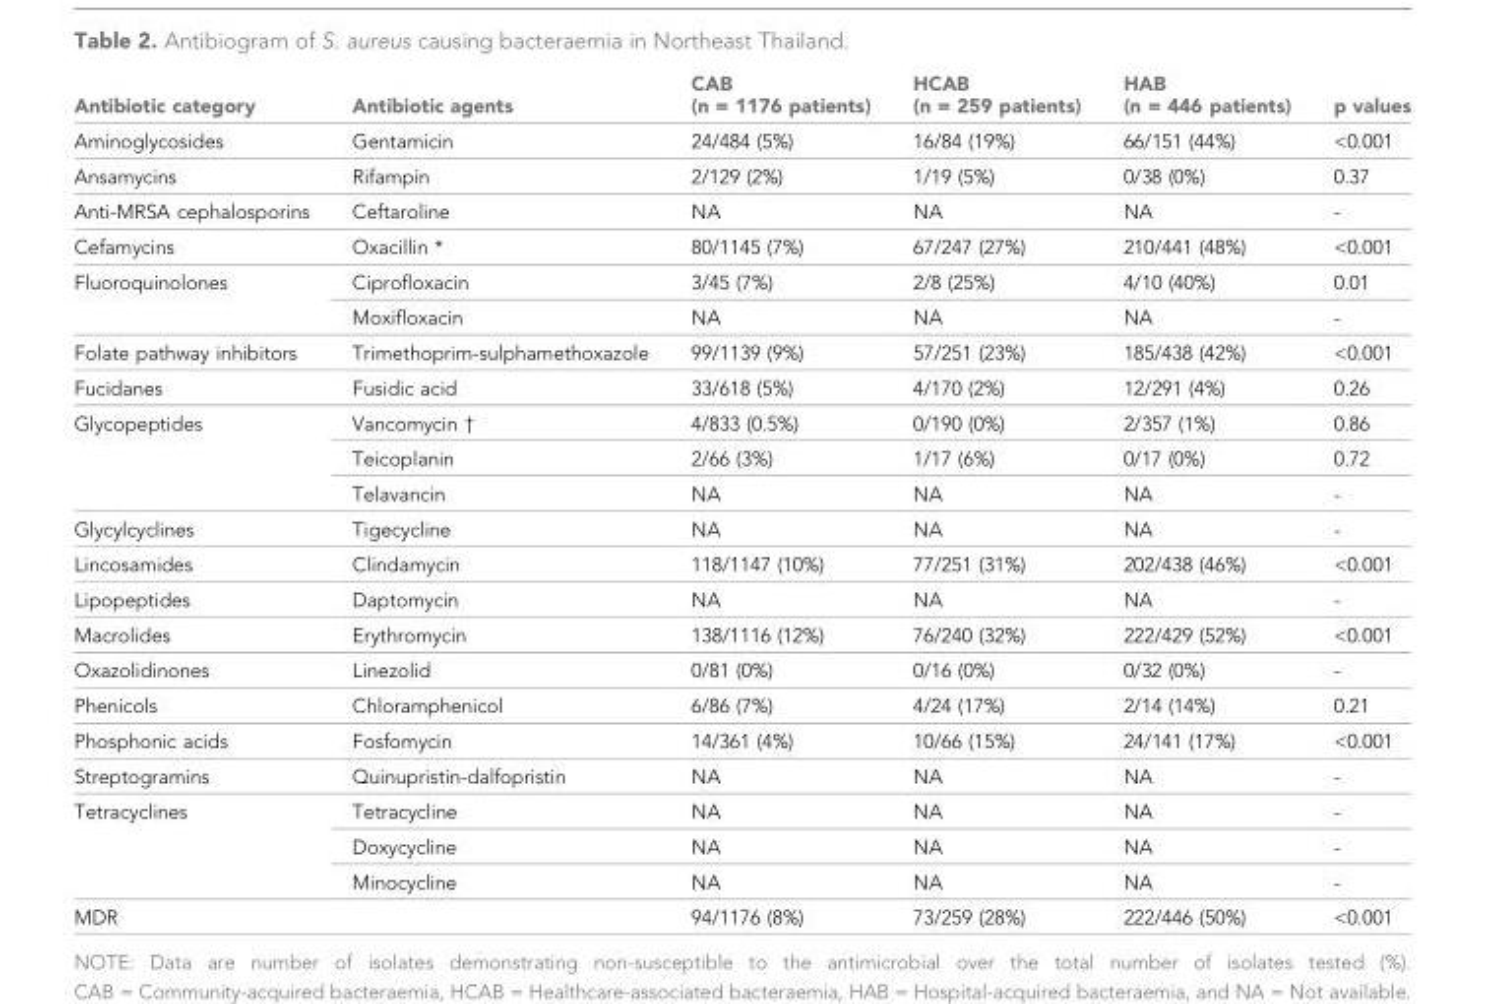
<table><thead><tr><td>Antibiotic category</td><td>Antibiotic agents</td><td>CAB (n = 1176 patients)</td><td>HCAB (n = 259 patients)</td><td>HAB (n = 446 patients)</td><td>p values</td></tr></thead><tbody><tr><td>Aminoglycosides</td><td>Gentamicin</td><td>24/484 (5%)</td><td>16/84 (19%)</td><td>66/151 (44%)</td><td>&lt;0.001</td></tr><tr><td>Ansamycins</td><td>Rifampin</td><td>2/129 (2%)</td><td>1/19 (5%)</td><td>0/38 (0%)</td><td>0.37</td></tr><tr><td>Anti-MRSA cephalosporins</td><td>Ceftaroline</td><td>NA</td><td>NA</td><td>NA</td><td>-</td></tr><tr><td>Cefamycins</td><td>Oxacillin *</td><td>80/1145 (7%)</td><td>67/247 (27%)</td><td>210/441 (48%)</td><td>&lt;0.001</td></tr><tr><td rowspan="2">Fluoroquinolones</td><td>Ciprofloxacin</td><td>3/45 (7%)</td><td>2/8 (25%)</td><td>4/10 (40%)</td><td>0.01</td></tr><tr><td>Moxifloxacin</td><td>NA</td><td>NA</td><td>NA</td><td>-</td></tr><tr><td>Folate pathway inhibitors</td><td>Trimethoprim-sulphamethoxazole</td><td>99/1139 (9%)</td><td>57/251 (23%)</td><td>185/438 (42%)</td><td>&lt;0.001</td></tr><tr><td>Fucidanes</td><td>Fusidic acid</td><td>33/618 (5%)</td><td>4/170 (2%)</td><td>12/291 (4%)</td><td>0.26</td></tr><tr><td rowspan="3">Glycopeptides</td><td>Vancomycin †</td><td>4/833 (0.5%)</td><td>0/190 (0%)</td><td>2/357 (1%)</td><td>0.86</td></tr><tr><td>Teicoplanin</td><td>2/66 (3%)</td><td>1/17 (6%)</td><td>0/17 (0%)</td><td>0.72</td></tr><tr><td>Telavancin</td><td>NA</td><td>NA</td><td>NA</td><td>-</td></tr><tr><td>Glycylcyclines</td><td>Tigecycline</td><td>NA</td><td>NA</td><td>NA</td><td>-</td></tr><tr><td>Lincosamides</td><td>Clindamycin</td><td>118/1147 (10%)</td><td>77/251 (31%)</td><td>202/438 (46%)</td><td>&lt;0.001</td></tr><tr><td>Lipopeptides</td><td>Daptomycin</td><td>NA</td><td>NA</td><td>NA</td><td>-</td></tr><tr><td>Macrolides</td><td>Erythromycin</td><td>138/1116 (12%)</td><td>76/240 (32%)</td><td>222/429 (52%)</td><td>&lt;0.001</td></tr><tr><td>Oxazolidinones</td><td>Linezolid</td><td>0/81 (0%)</td><td>0/16 (0%)</td><td>0/32 (0%)</td><td>-</td></tr><tr><td>Phenicols</td><td>Chloramphenicol</td><td>6/86 (7%)</td><td>4/24 (17%)</td><td>2/14 (14%)</td><td>0.21</td></tr><tr><td>Phosphonic acids</td><td>Fosfomycin</td><td>14/361 (4%)</td><td>10/66 (15%)</td><td>24/141 (17%)</td><td>&lt;0.001</td></tr><tr><td>Streptogramins</td><td>Quinupristin-dalfopristin</td><td>NA</td><td>NA</td><td>NA</td><td>-</td></tr><tr><td rowspan="3">Tetracyclines</td><td>Tetracycline</td><td>NA</td><td>NA</td><td>NA</td><td>-</td></tr><tr><td>Doxycycline</td><td>NA</td><td>NA</td><td>NA</td><td>-</td></tr><tr><td>Minocycline</td><td>NA</td><td>NA</td><td>NA</td><td>-</td></tr><tr><td>MDR</td><td></td><td>94/1176 (8%)</td><td>73/259 (28%)</td><td>222/446 (50%)</td><td>&lt;0.001</td></tr></tbody></table>